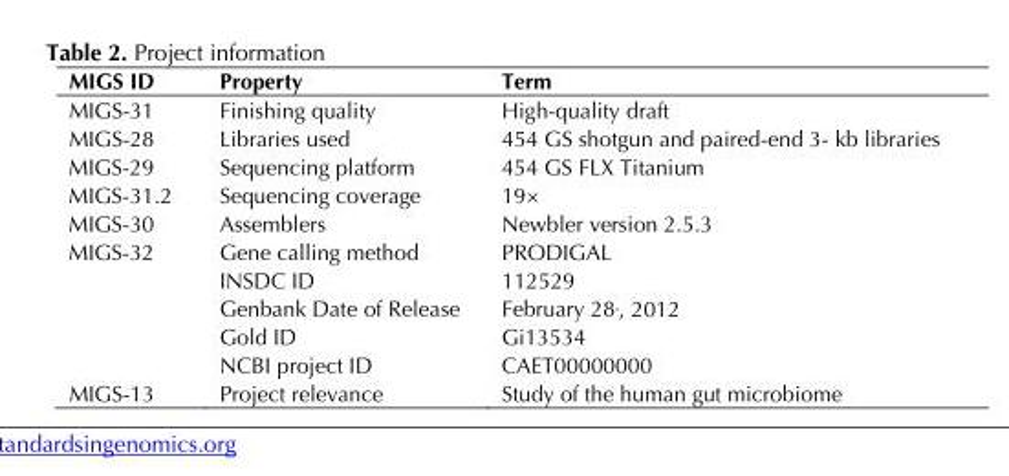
<table><thead><tr><td>MIGS ID</td><td>Property</td><td>Term</td></tr></thead><tbody><tr><td>MIGS-31</td><td>Finishing quality</td><td>High-quality draft</td></tr><tr><td>MIGS-28</td><td>Libraries used</td><td>454 GS shotgun and paired-end 3- kb libraries</td></tr><tr><td>MIGS-29</td><td>Sequencing platform</td><td>454 GS FLX Titanium</td></tr><tr><td>MIGS-31.2</td><td>Sequencing coverage</td><td>19×</td></tr><tr><td>MIGS-30</td><td>Assemblers</td><td>Newbler version 2.5.3</td></tr><tr><td rowspan="5">MIGS-32</td><td>Gene calling method</td><td>PRODIGAL</td></tr><tr><td>INSDC ID</td><td>112529</td></tr><tr><td>Genbank Date of Release</td><td>February 28 <sup>th</sup>, 2012</td></tr><tr><td>Gold ID</td><td>Gi13534</td></tr><tr><td>NCBI project ID</td><td>CAET00000000</td></tr><tr><td>MIGS-13</td><td>Project relevance</td><td>Study of the human gut microbiome</td></tr></tbody></table>